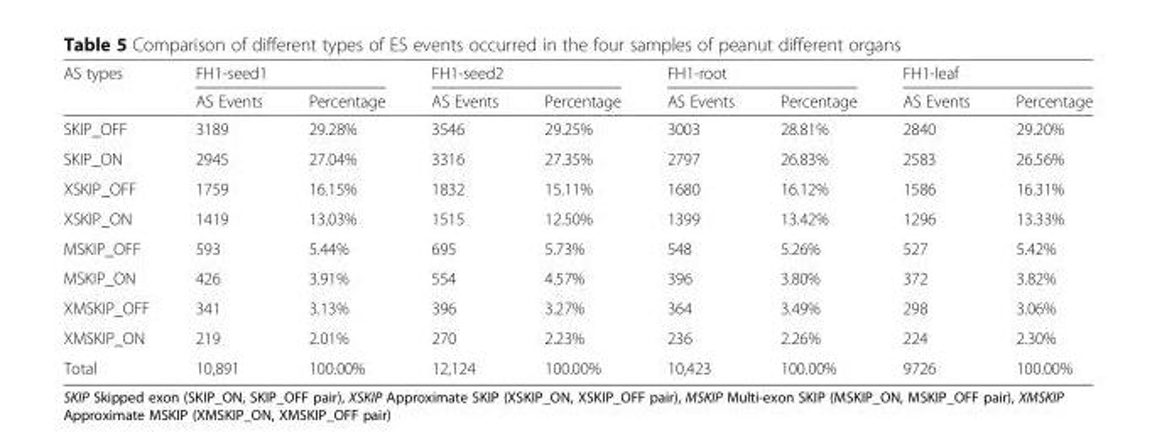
<table><thead><tr><td rowspan="2">AS types</td><td colspan="2">FH1-seed1</td><td colspan="2">FH1-seed2</td><td colspan="2">FH1-root</td><td colspan="2">FH1-leaf</td></tr><tr><td>AS Events</td><td>Percentage</td><td>AS Events</td><td>Percentage</td><td>AS Events</td><td>Percentage</td><td>AS Events</td><td>Percentage</td></tr></thead><tbody><tr><td>SKIP_OFF</td><td>3189</td><td>29.28%</td><td>3546</td><td>29.25%</td><td>3003</td><td>28.81%</td><td>2840</td><td>29.20%</td></tr><tr><td>SKIP_ON</td><td>2945</td><td>27.04%</td><td>3316</td><td>27.35%</td><td>2797</td><td>26.83%</td><td>2583</td><td>26.56%</td></tr><tr><td>XSKIP_OFF</td><td>1759</td><td>16.15%</td><td>1832</td><td>15.11%</td><td>1680</td><td>16.12%</td><td>1586</td><td>16.31%</td></tr><tr><td>XSKIP_ON</td><td>1419</td><td>13.03%</td><td>1515</td><td>12.50%</td><td>1399</td><td>13.42%</td><td>1296</td><td>13.33%</td></tr><tr><td>MSKIP_OFF</td><td>593</td><td>5.44%</td><td>695</td><td>5.73%</td><td>548</td><td>5.26%</td><td>527</td><td>5.42%</td></tr><tr><td>MSKIP_ON</td><td>426</td><td>3.91%</td><td>554</td><td>4.57%</td><td>396</td><td>3.80%</td><td>372</td><td>3.82%</td></tr><tr><td>XMSKIP_OFF</td><td>341</td><td>3.13%</td><td>396</td><td>3.27%</td><td>364</td><td>3.49%</td><td>298</td><td>3.06%</td></tr><tr><td>XMSKIP_ON</td><td>219</td><td>2.01%</td><td>270</td><td>2.23%</td><td>236</td><td>2.26%</td><td>224</td><td>2.30%</td></tr><tr><td>Total</td><td>10,891</td><td>100.00%</td><td>12,124</td><td>100.00%</td><td>10,423</td><td>100.00%</td><td>9726</td><td>100.00%</td></tr></tbody></table>